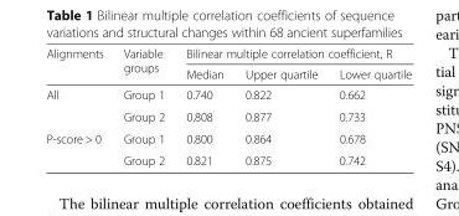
<table><thead><tr><td rowspan="2">Alignments</td><td rowspan="2">Variable groups</td><td colspan="3">Bilinear multiple correlation coefficient, R</td></tr><tr><td>Median</td><td>Upper quartile</td><td>Lower quartile</td></tr></thead><tbody><tr><td rowspan="2">All</td><td>Group 1</td><td>0.740</td><td>0.822</td><td>0.662</td></tr><tr><td>Group 2</td><td>0.808</td><td>0.877</td><td>0.733</td></tr><tr><td rowspan="2">P-score &gt; 0</td><td>Group 1</td><td>0.800</td><td>0.864</td><td>0.678</td></tr><tr><td>Group 2</td><td>0.821</td><td>0.875</td><td>0.742</td></tr></tbody></table>